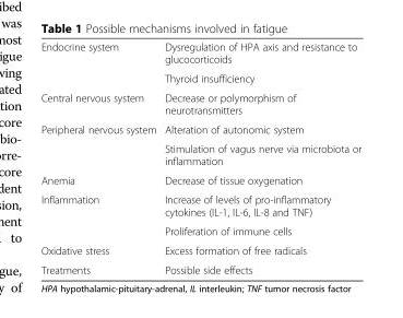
<table><tbody><tr><td rowspan="2">Endocrine system</td><td>Dysregulation of HPA axis and resistance to glucocorticoids</td></tr><tr><td>Thyroid insufficiency</td></tr><tr><td>Central nervous system</td><td>Decrease or polymorphism of neurotransmitters</td></tr><tr><td rowspan="2">Peripheral nervous system</td><td>Alteration of autonomic system</td></tr><tr><td>Stimulation of vagus nerve via microbiota or inflammation</td></tr><tr><td>Anemia</td><td>Decrease of tissue oxygenation</td></tr><tr><td rowspan="2">Inflammation</td><td>Increase of levels of pro-inflammatory cytokines (IL-1, IL-6, IL-8 and TNF)</td></tr><tr><td>Proliferation of immune cells</td></tr><tr><td>Oxidative stress</td><td>Excess formation of free radicals</td></tr><tr><td>Treatments</td><td>Possible side effects</td></tr></tbody></table>